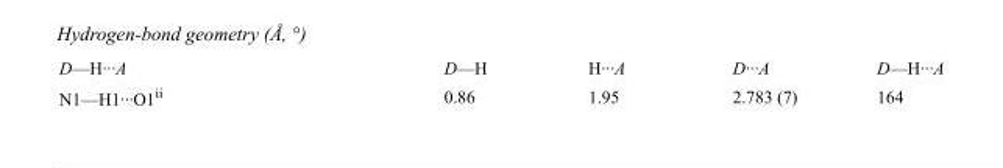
<table><tbody><tr><td>D—H···A</td><td>D—H</td><td>H···A</td><td>D···A</td><td>D—H···A</td></tr><tr><td>N1—H1···O1<sup>ii</sup></td><td>0.86</td><td>1.95</td><td>2.783 (7)</td><td>164</td></tr></tbody></table>